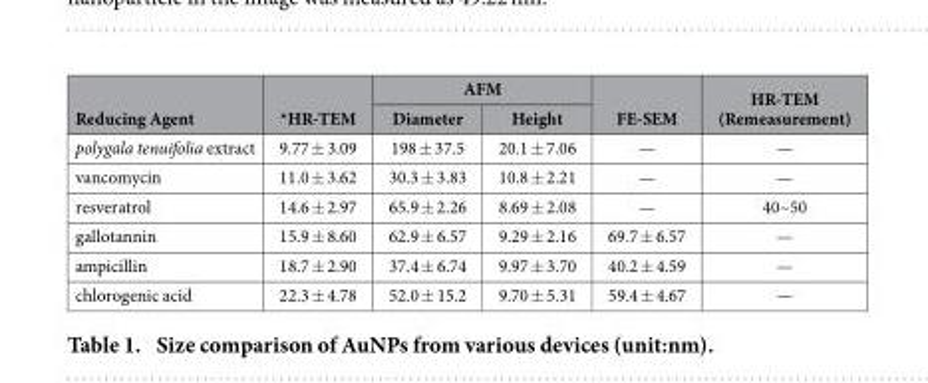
<table><thead><tr><td rowspan="2">Reducing Agent</td><td rowspan="2">*HR-TEM</td><td colspan="2">AFM</td><td rowspan="2">FE-SEM</td><td rowspan="2">HR-TEM (Remeasurement)</td></tr><tr><td>Diameter</td><td>Height</td></tr></thead><tbody><tr><td>polygala tenuifolia extract</td><td>9.77 ± 3.09</td><td>198 ± 37.5</td><td>20.1 ± 7.06</td><td>—</td><td>—</td></tr><tr><td>vancomycin</td><td>11.0 ± 3.62</td><td>30.3 ± 3.83</td><td>10.8 ± 2.21</td><td>—</td><td>—</td></tr><tr><td>resveratrol</td><td>14.6 ± 2.97</td><td>65.9 ± 2.26</td><td>8.69 ± 2.08</td><td>—</td><td>40~50</td></tr><tr><td>gallotannin</td><td>15.9 ± 8.60</td><td>62.9 ± 6.57</td><td>9.29 ± 2.16</td><td>69.7 ± 6.57</td><td>—</td></tr><tr><td>ampicillin</td><td>18.7 ± 2.90</td><td>37.4 ± 6.74</td><td>9.97 ± 3.70</td><td>40.2 ± 4.59</td><td>—</td></tr><tr><td>chlorogenic acid</td><td>22.3 ± 4.78</td><td>52.0 ± 15.2</td><td>9.70 ± 5.31</td><td>59.4 ± 4.67</td><td>—</td></tr></tbody></table>